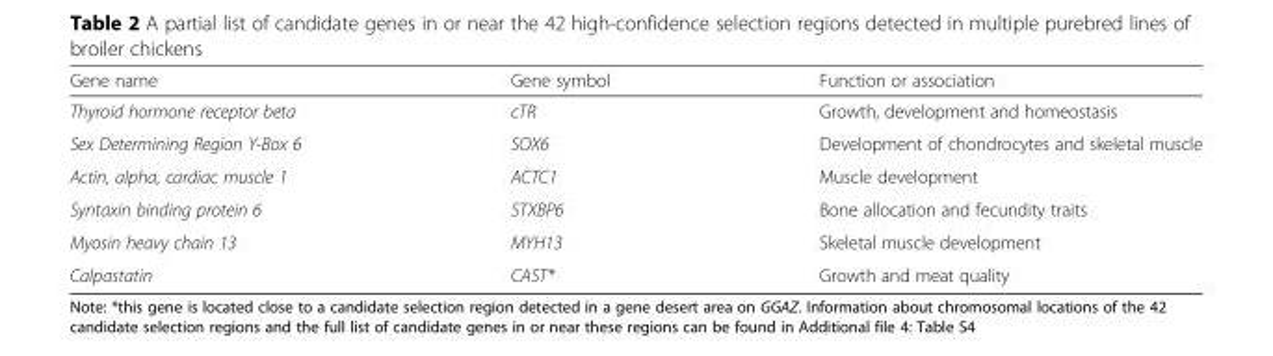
<table><thead><tr><td>Gene name</td><td>Gene symbol</td><td>Function or association</td></tr></thead><tbody><tr><td>Thyroid hormone receptor beta</td><td>cTR</td><td>Growth, development and homeostasis</td></tr><tr><td>Sex Determining Region Y-Box 6</td><td>SOX6</td><td>Development of chondrocytes and skeletal muscle</td></tr><tr><td>Actin, alpha, cardiac muscle 1</td><td>ACTC1</td><td>Muscle development</td></tr><tr><td>Syntaxin binding protein 6</td><td>STXBP6</td><td>Bone allocation and fecundity traits</td></tr><tr><td>Myosin heavy chain 13</td><td>MYH13</td><td>Skeletal muscle development</td></tr><tr><td>Calpastatin</td><td>CAST*</td><td>Growth and meat quality</td></tr></tbody></table>